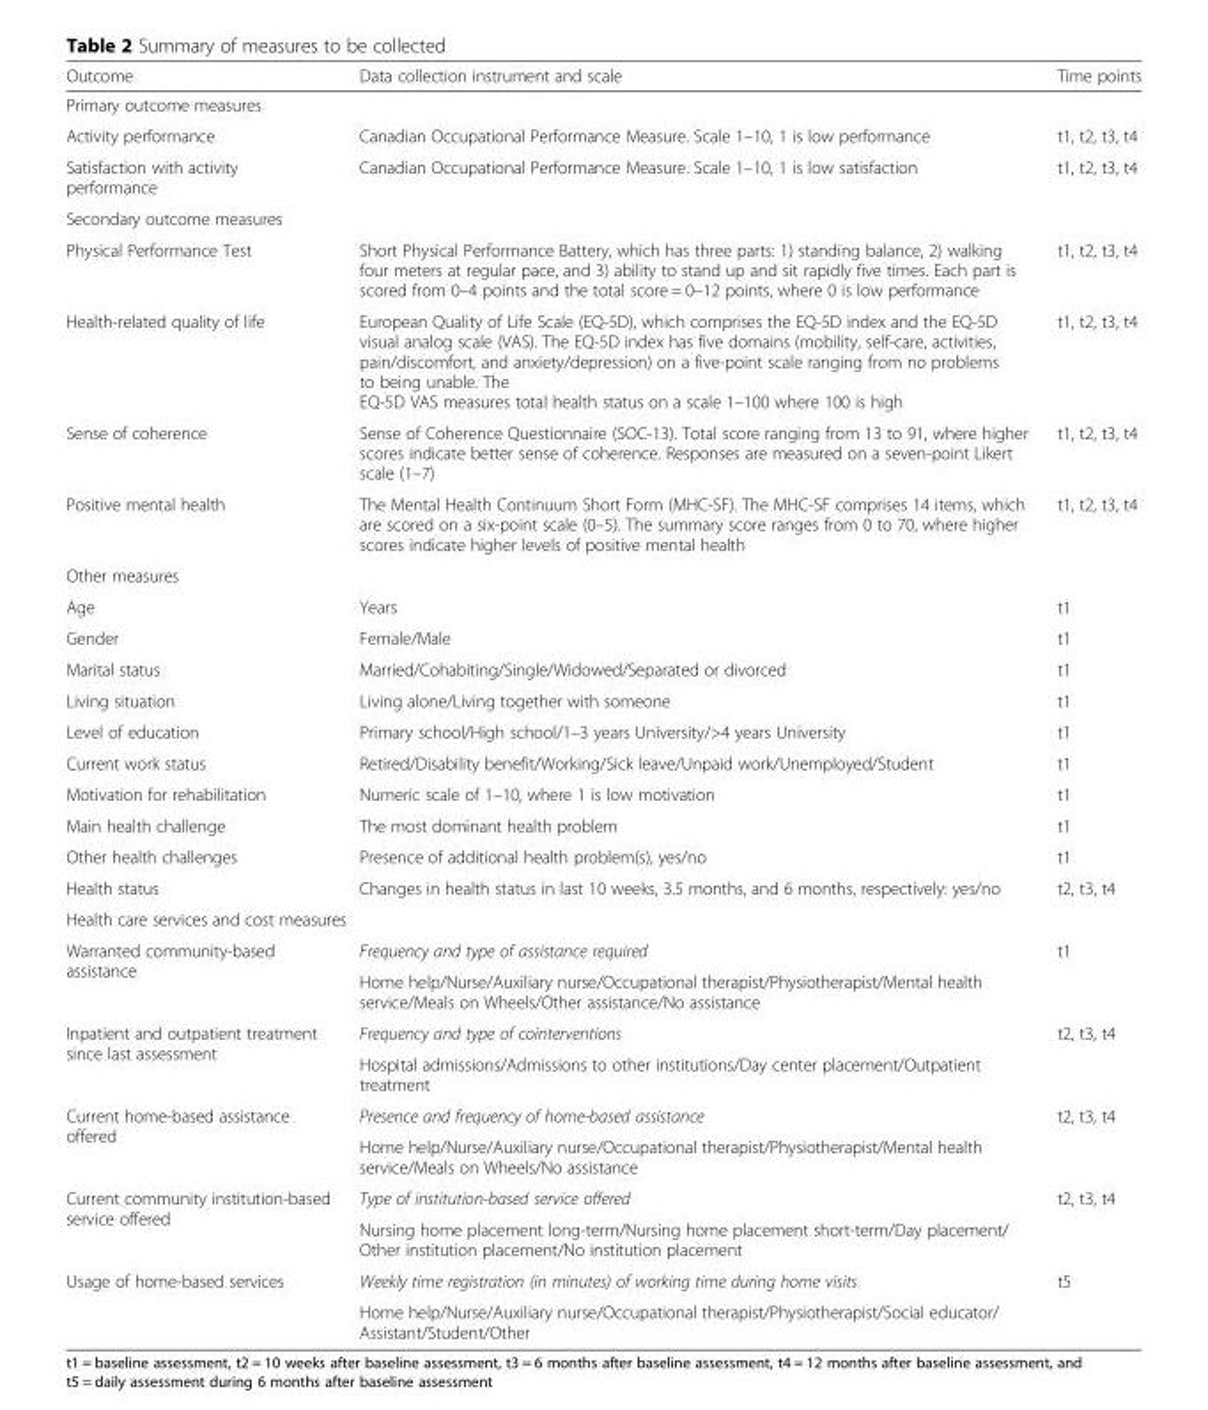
<table><thead><tr><td>Outcome</td><td>Data collection instrument and scale</td><td>Time points</td></tr></thead><tbody><tr><td colspan="3">Primary outcome measures</td></tr><tr><td>Activity performance</td><td>Canadian Occupational Performance Measure. Scale 1–10, 1 is low performance</td><td>t1, t2, t3, t4</td></tr><tr><td>Satisfaction with activity performance</td><td>Canadian Occupational Performance Measure. Scale 1–10, 1 is low satisfaction</td><td>t1, t2, t3, t4</td></tr><tr><td colspan="3">Secondary outcome measures</td></tr><tr><td>Physical Performance Test</td><td>Short Physical Performance Battery, which has three parts: 1) standing balance, 2) walking four meters at regular pace, and 3) ability to stand up and sit rapidly five times. Each part is scored from 0–4 points and the total score = 0–12 points, where 0 is low performance</td><td>t1, t2, t3, t4</td></tr><tr><td>Health-related quality of life</td><td>European Quality of Life Scale (EQ-5D), which comprises the EQ-5D index and the EQ-5D visual analog scale (VAS). The EQ-5D index has five domains (mobility, self-care, activities, pain/discomfort, and anxiety/depression) on a five-point scale ranging from no problems to being unable. The EQ-5D VAS measures total health status on a scale 1–100 where 100 is high</td><td>t1, t2, t3, t4</td></tr><tr><td>Sense of coherence</td><td>Sense of Coherence Questionnaire (SOC-13). Total score ranging from 13 to 91, where higher scores indicate better sense of coherence. Responses are measured on a seven-point Likert scale (1–7)</td><td>t1, t2, t3, t4</td></tr><tr><td>Positive mental health</td><td>The Mental Health Continuum Short Form (MHC-SF). The MHC-SF comprises 14 items, which are scored on a six-point scale (0–5). The summary score ranges from 0 to 70, where higher scores indicate higher levels of positive mental health</td><td>t1, t2, t3, t4</td></tr><tr><td colspan="3">Other measures</td></tr><tr><td>Age</td><td>Years</td><td>t1</td></tr><tr><td>Gender</td><td>Female/Male</td><td>t1</td></tr><tr><td>Marital status</td><td>Married/Cohabiting/Single/Widowed/Separated or divorced</td><td>t1</td></tr><tr><td>Living situation</td><td>Living alone/Living together with someone</td><td>t1</td></tr><tr><td>Level of education</td><td>Primary school/High school/1–3 years University/&gt;4 years University</td><td>t1</td></tr><tr><td>Current work status</td><td>Retired/Disability benefit/Working/Sick leave/Unpaid work/Unemployed/Student</td><td>t1</td></tr><tr><td>Motivation for rehabilitation</td><td>Numeric scale of 1–10, where 1 is low motivation</td><td>t1</td></tr><tr><td>Main health challenge</td><td>The most dominant health problem</td><td>t1</td></tr><tr><td>Other health challenges</td><td>Presence of additional health problem(s), yes/no</td><td>t1</td></tr><tr><td>Health status</td><td>Changes in health status in last 10 weeks, 3.5 months, and 6 months, respectively: yes/no</td><td>t2, t3, t4</td></tr><tr><td colspan="3">Health care services and cost measures</td></tr><tr><td rowspan="2">Warranted community-based assistance</td><td>Frequency and type of assistance required</td><td rowspan="2">t1</td></tr><tr><td>Home help/Nurse/Auxiliary nurse/Occupational therapist/Physiotherapist/Mental health service/Meals on Wheels/Other assistance/No assistance</td></tr><tr><td rowspan="2">Inpatient and outpatient treatment since last assessment</td><td>Frequency and type of cointerventions</td><td rowspan="2">t2, t3, t4</td></tr><tr><td>Hospital admissions/Admissions to other institutions/Day center placement/Outpatient treatment</td></tr><tr><td rowspan="2">Current home-based assistance offered</td><td>Presence and frequency of home-based assistance</td><td rowspan="2">t2, t3, t4</td></tr><tr><td>Home help/Nurse/Auxiliary nurse/Occupational therapist/Physiotherapist/Mental health service/Meals on Wheels/No assistance</td></tr><tr><td rowspan="2">Current community institution-based service offered</td><td>Type of institution-based service offered</td><td rowspan="2">t2, t3, t4</td></tr><tr><td>Nursing home placement long-term/Nursing home placement short-term/Day placement/ Other institution placement/No institution placement</td></tr><tr><td rowspan="2">Usage of home-based services</td><td>Weekly time registration (in minutes) of working time during home visits</td><td rowspan="2">t5</td></tr><tr><td>Home help/Nurse/Auxiliary nurse/Occupational therapist/Physiotherapist/Social educator/ Assistant/Student/Other</td></tr></tbody></table>